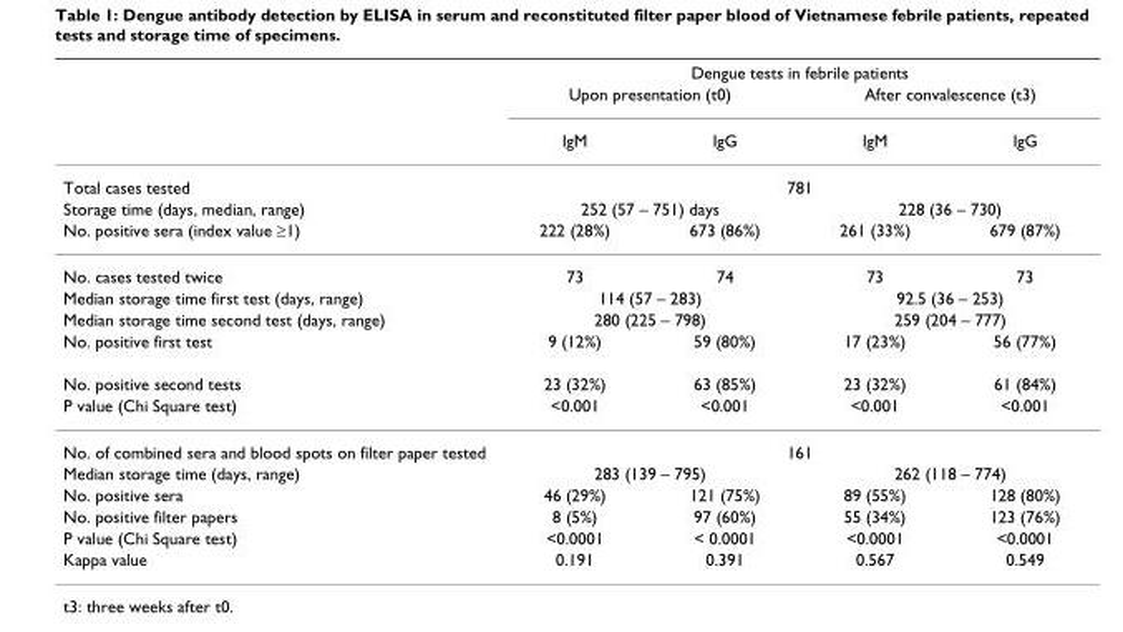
<table><thead><tr><td rowspan="3"></td><td colspan="4">Dengue tests in febrile patients</td></tr><tr><td colspan="2">Upon presentation (t0)</td><td colspan="2">After convalescence (t3)</td></tr><tr><td>IgM</td><td>IgG</td><td>IgM</td><td>IgG</td></tr></thead><tbody><tr><td>Total cases tested</td><td colspan="4">781</td></tr><tr><td>Storage time (days, median, range)</td><td colspan="2">252 (57 – 751) days</td><td colspan="2">228 (36 – 730)</td></tr><tr><td>No. positive sera (index value ≥1)</td><td>222 (28%)</td><td>673 (86%)</td><td>261 (33%)</td><td>679 (87%)</td></tr><tr><td>No. cases tested twice</td><td>73</td><td>74</td><td>73</td><td>73</td></tr><tr><td>Median storage time first test (days, range)</td><td colspan="2">114 (57 – 283)</td><td colspan="2">92.5 (36 – 253)</td></tr><tr><td>Median storage time second test (days, range)</td><td colspan="2">280 (225 – 798)</td><td colspan="2">259 (204 – 777)</td></tr><tr><td>No. positive first test</td><td>9 (12%)</td><td>59 (80%)</td><td>17 (23%)</td><td>56 (77%)</td></tr><tr><td>No. positive second tests</td><td>23 (32%)</td><td>63 (85%)</td><td>23 (32%)</td><td>61 (84%)</td></tr><tr><td>P value (Chi Square test)</td><td>&lt;0.001</td><td>&lt;0.001</td><td>&lt;0.001</td><td>&lt;0.001</td></tr><tr><td>No. of combined sera and blood spots on filter paper tested</td><td colspan="4">161</td></tr><tr><td>Median storage time (days, range)</td><td colspan="2">283 (139 – 795)</td><td colspan="2">262 (118 – 774)</td></tr><tr><td>No. positive sera</td><td>46 (29%)</td><td>121 (75%)</td><td>89 (55%)</td><td>128 (80%)</td></tr><tr><td>No. positive filter papers</td><td>8 (5%)</td><td>97 (60%)</td><td>55 (34%)</td><td>123 (76%)</td></tr><tr><td>P value (Chi Square test)</td><td>&lt;0.0001</td><td>&lt; 0.0001</td><td>&lt;0.0001</td><td>&lt;0.0001</td></tr><tr><td>Kappa value</td><td>0.191</td><td>0.391</td><td>0.567</td><td>0.549</td></tr></tbody></table>